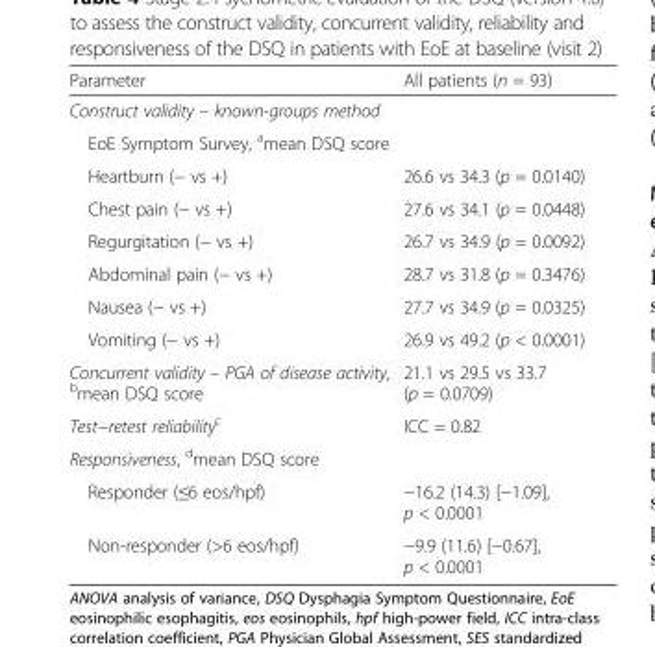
<table><thead><tr><td>Parameter</td><td>All patients (n = 93)</td></tr></thead><tbody><tr><td colspan="2">Construct validity – known-groups method</td></tr><tr><td colspan="2">EoE Symptom Survey, <sup>a</sup>mean DSQ score</td></tr><tr><td>Heartburn (− vs +)</td><td>26.6 vs 34.3 (p = 0.0140)</td></tr><tr><td>Chest pain (− vs +)</td><td>27.6 vs 34.1 (p = 0.0448)</td></tr><tr><td>Regurgitation (− vs +)</td><td>26.7 vs 34.9 (p = 0.0092)</td></tr><tr><td>Abdominal pain (− vs +)</td><td>28.7 vs 31.8 (p = 0.3476)</td></tr><tr><td>Nausea (− vs +)</td><td>27.7 vs 34.9 (p = 0.0325)</td></tr><tr><td>Vomiting (− vs +)</td><td>26.9 vs 49.2 (p &lt; 0.0001)</td></tr><tr><td>Concurrent validity – PGA of disease activity, <sup>b</sup>mean DSQ score</td><td>21.1 vs 29.5 vs 33.7 (p = 0.0709)</td></tr><tr><td>Test−retest reliability<sup>c</sup></td><td>ICC = 0.82</td></tr><tr><td colspan="2">Responsiveness, <sup>d</sup>mean DSQ score</td></tr><tr><td>Responder (≤6 eos/hpf)</td><td>−16.2 (14.3) [−1.09], p &lt; 0.0001</td></tr><tr><td>Non-responder (&gt;6 eos/hpf)</td><td>−9.9 (11.6) [−0.67], p &lt; 0.0001</td></tr></tbody></table>